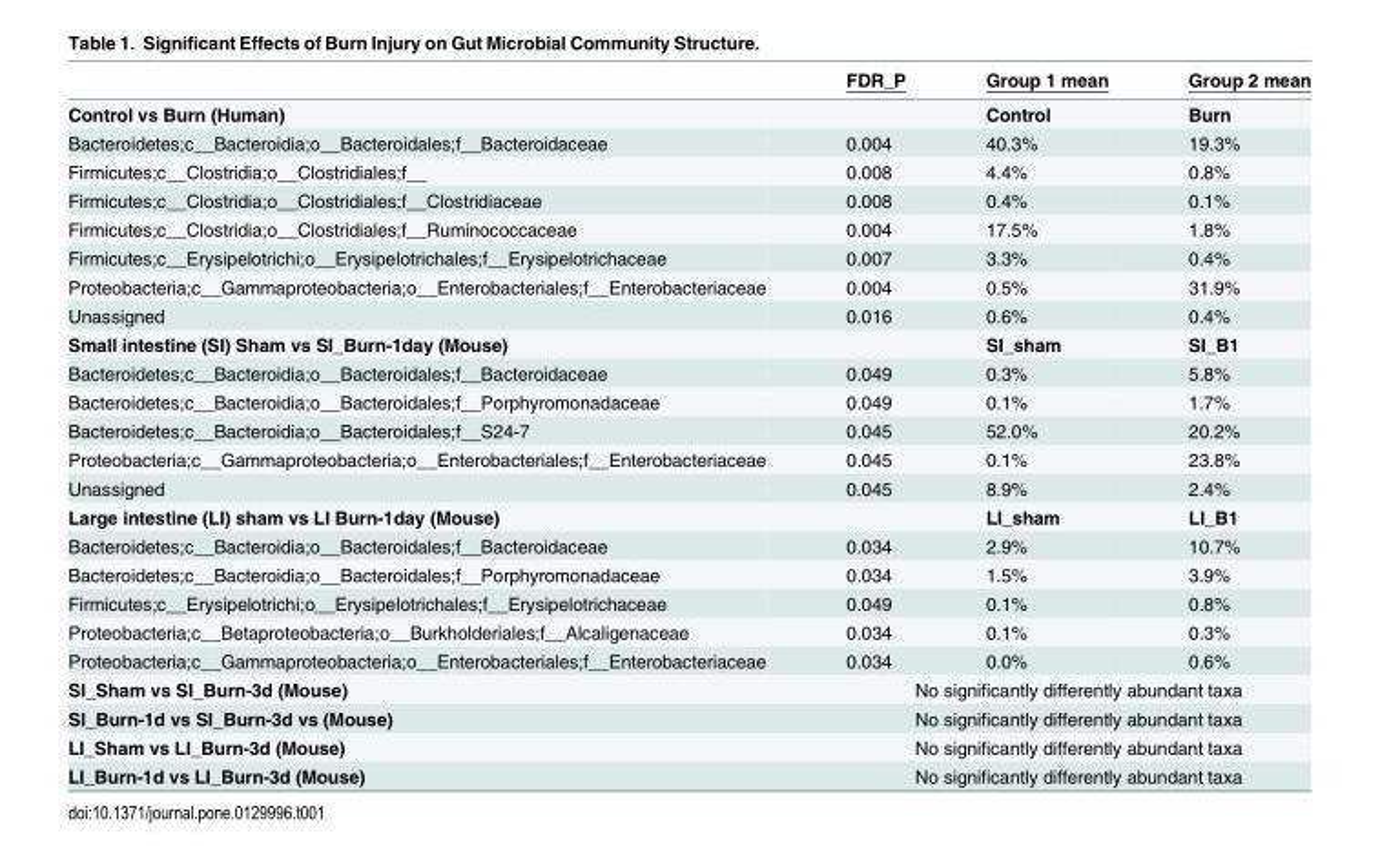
<table><thead><tr><td></td><td>FDR_P</td><td>Group 1 mean</td><td>Group 2 mean</td></tr></thead><tbody><tr><td>Control vs Burn (Human)</td><td></td><td>Control</td><td>Burn</td></tr><tr><td>Bacteroidetes;c__Bacteroidia;o__Bacteroidales;f__Bacteroidaceae</td><td>0.004</td><td>40.3%</td><td>19.3%</td></tr><tr><td>Firmicutes;c__Clostridia;o__Clostridiales;f__</td><td>0.008</td><td>4.4%</td><td>0.8%</td></tr><tr><td>Firmicutes;c__Clostridia;o__Clostridiales;f__Clostridiaceae</td><td>0.008</td><td>0.4%</td><td>0.1%</td></tr><tr><td>Firmicutes;c__Clostridia;o__Clostridiales;f__Ruminococcaceae</td><td>0.004</td><td>17.5%</td><td>1.8%</td></tr><tr><td>Firmicutes;c__Erysipelotrichi;o__Erysipelotrichales;f__Erysipelotrichaceae</td><td>0.007</td><td>3.3%</td><td>0.4%</td></tr><tr><td>Proteobacteria;c__Gammaproteobacteria;o__Enterobacteriales;f__Enterobacteriaceae</td><td>0.004</td><td>0.5%</td><td>31.9%</td></tr><tr><td>Unassigned</td><td>0.016</td><td>0.6%</td><td>0.4%</td></tr><tr><td>Small intestine (SI) Sham vs SI_Burn-1day (Mouse)</td><td></td><td>SI_sham</td><td>SI_B1</td></tr><tr><td>Bacteroidetes;c__Bacteroidia;o__Bacteroidales;f__Bacteroidaceae</td><td>0.049</td><td>0.3%</td><td>5.8%</td></tr><tr><td>Bacteroidetes;c__Bacteroidia;o__Bacteroidales;f__Porphyromonadaceae</td><td>0.049</td><td>0.1%</td><td>1.7%</td></tr><tr><td>Bacteroidetes;c__Bacteroidia;o__Bacteroidales;f__S24-7</td><td>0.045</td><td>52.0%</td><td>20.2%</td></tr><tr><td>Proteobacteria;c__Gammaproteobacteria;o__Enterobacteriales;f__Enterobacteriaceae</td><td>0.045</td><td>0.1%</td><td>23.8%</td></tr><tr><td>Unassigned</td><td>0.045</td><td>8.9%</td><td>2.4%</td></tr><tr><td>Large intestine (LI) sham vs LI Burn-1day (Mouse)</td><td></td><td>LI_sham</td><td>LI_B1</td></tr><tr><td>Bacteroidetes;c__Bacteroidia;o__Bacteroidales;f__Bacteroidaceae</td><td>0.034</td><td>2.9%</td><td>10.7%</td></tr><tr><td>Bacteroidetes;c__Bacteroidia;o__Bacteroidales;f__Porphyromonadaceae</td><td>0.034</td><td>1.5%</td><td>3.9%</td></tr><tr><td>Firmicutes;c__Erysipelotrichi;o__Erysipelotrichales;f__Erysipelotrichaceae</td><td>0.049</td><td>0.1%</td><td>0.8%</td></tr><tr><td>Proteobacteria;c__Betaproteobacteria;o__Burkholderiales;f__Alcaligenaceae</td><td>0.034</td><td>0.1%</td><td>0.3%</td></tr><tr><td>Proteobacteria;c__Gammaproteobacteria;o__Enterobacteriales;f__Enterobacteriaceae</td><td>0.034</td><td>0.0%</td><td>0.6%</td></tr><tr><td>SI_Sham vs SI_Burn-3d (Mouse)</td><td colspan="3">No significantly differently abundant taxa</td></tr><tr><td>SI_Burn-1d vs SI_Burn-3d vs (Mouse)</td><td colspan="3">No significantly differently abundant taxa</td></tr><tr><td>LI_Sham vs LI_Burn-3d (Mouse)</td><td colspan="3">No significantly differently abundant taxa</td></tr><tr><td>LI_Burn-1d vs LI_Burn-3d (Mouse)</td><td colspan="3">No significantly differently abundant taxa</td></tr></tbody></table>